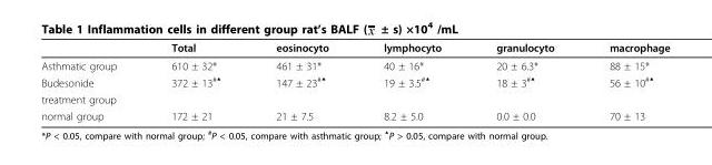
<table><thead><tr><td></td><td>Total</td><td>eosinocyto</td><td>lymphocyto</td><td>granulocyto</td><td>macrophage</td></tr></thead><tbody><tr><td>Asthmatic group</td><td>610 ± 32*</td><td>461 ± 31*</td><td>40 ± 16*</td><td>20 ± 6.3*</td><td>88 ± 15*</td></tr><tr><td>Budesonide</td><td>372 ± 13<sup>#▲</sup></td><td>147 ± 23<sup>#▲</sup></td><td>19 ± 3.5<sup>#▲</sup></td><td>18 ± 3<sup>#▲</sup></td><td>56 ± 10<sup>#▲</sup></td></tr><tr><td colspan="6">treatment group</td></tr><tr><td>normal group</td><td>172 ± 21</td><td>21 ± 7.5</td><td>8.2 ± 5.0</td><td>0.0 ± 0.0</td><td>70 ± 13</td></tr></tbody></table>